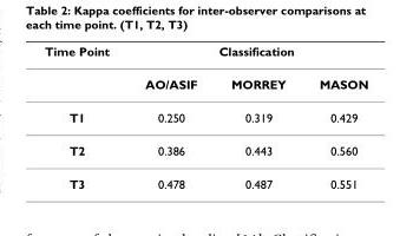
<table><thead><tr><td rowspan="2">Time Point</td><td colspan="3">Classification</td></tr><tr><td>AO/ASIF</td><td>MORREY</td><td>MASON</td></tr></thead><tbody><tr><td>T1</td><td>0.250</td><td>0.319</td><td>0.429</td></tr><tr><td>T2</td><td>0.386</td><td>0.443</td><td>0.560</td></tr><tr><td>T3</td><td>0.478</td><td>0.487</td><td>0.551</td></tr></tbody></table>